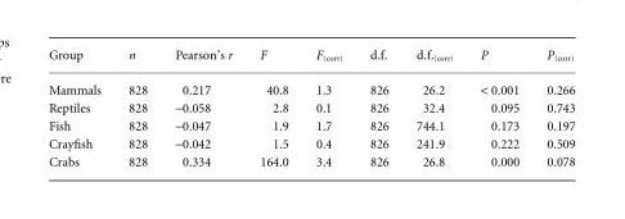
<table><thead><tr><td>Group</td><td>n</td><td>Pearson’s r</td><td>F</td><td>F<sub>(corr)</sub></td><td>d.f.</td><td>d.f.<sub>(corr)</sub></td><td>P</td><td>P<sub>(corr)</sub></td></tr></thead><tbody><tr><td>Mammals</td><td>828</td><td>0.217</td><td>40.8</td><td>1.3</td><td>826</td><td>26.2</td><td>&lt; 0.001</td><td>0.266</td></tr><tr><td>Reptiles</td><td>828</td><td>-0.058</td><td>2.8</td><td>0.1</td><td>826</td><td>32.4</td><td>0.095</td><td>0.743</td></tr><tr><td>Fish</td><td>828</td><td>-0.047</td><td>1.9</td><td>1.7</td><td>826</td><td>744.1</td><td>0.173</td><td>0.197</td></tr><tr><td>Crayfish</td><td>828</td><td>-0.042</td><td>1.5</td><td>0.4</td><td>826</td><td>241.9</td><td>0.222</td><td>0.509</td></tr><tr><td>Crabs</td><td>828</td><td>0.334</td><td>164.0</td><td>3.4</td><td>826</td><td>26.8</td><td>0.000</td><td>0.078</td></tr></tbody></table>